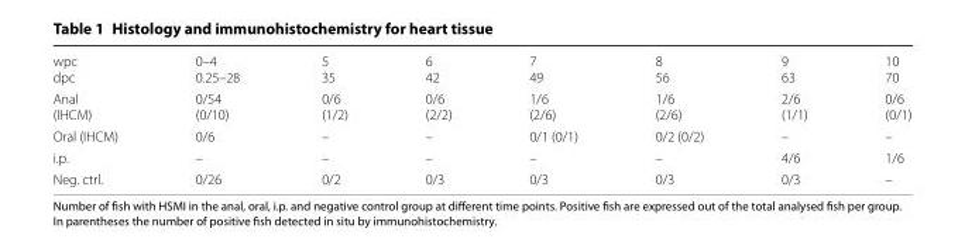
<table><tbody><tr><td>wpc dpc</td><td>0–4 0.25–28</td><td>5 35</td><td>6 42</td><td>7 49</td><td>8 56</td><td>9 63</td><td>10 70</td></tr><tr><td>Anal (IHCM)</td><td>0/54 (0/10)</td><td>0/6 (1/2)</td><td>0/6 (2/2)</td><td>1/6 (2/6)</td><td>1/6 (2/6)</td><td>2/6 (1/1)</td><td>0/6 (0/1)</td></tr><tr><td>Oral (IHCM)</td><td>0/6</td><td>–</td><td>–</td><td>0/1 (0/1)</td><td>0/2 (0/2)</td><td>–</td><td>–</td></tr><tr><td>i.p.</td><td>–</td><td>–</td><td>–</td><td>–</td><td>–</td><td>4/6</td><td>1/6</td></tr><tr><td>Neg. ctrl.</td><td>0/26</td><td>0/2</td><td>0/3</td><td>0/3</td><td>0/3</td><td>0/3</td><td>–</td></tr></tbody></table>